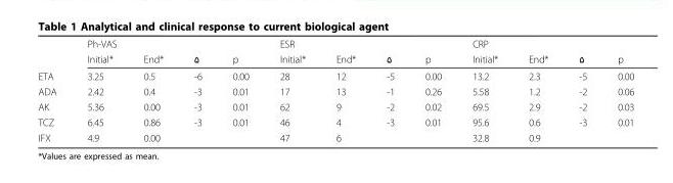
<table><thead><tr><td rowspan="2"></td><td colspan="4">Ph-VAS</td><td colspan="4">ESR</td><td colspan="4">CRP</td></tr><tr><td>Initial*</td><td>End*</td><td>۵</td><td>p</td><td>Initial*</td><td>End*</td><td>۵</td><td>p</td><td>Initial*</td><td>End*</td><td>۵</td><td>p</td></tr></thead><tbody><tr><td>ETA</td><td>3.25</td><td>0.5</td><td>-6</td><td>0.00</td><td>28</td><td>12</td><td>-5</td><td>0.00</td><td>13.2</td><td>2.3</td><td>-5</td><td>0.00</td></tr><tr><td>ADA</td><td>2.42</td><td>0.4</td><td>-3</td><td>0.01</td><td>17</td><td>13</td><td>-1</td><td>0.26</td><td>5.58</td><td>1.2</td><td>-2</td><td>0.06</td></tr><tr><td>AK</td><td>5.36</td><td>0.00</td><td>-3</td><td>0.01</td><td>62</td><td>9</td><td>-2</td><td>0.02</td><td>69.5</td><td>2.9</td><td>-2</td><td>0.03</td></tr><tr><td>TCZ</td><td>6.45</td><td>0.86</td><td>-3</td><td>0.01</td><td>46</td><td>4</td><td>-3</td><td>0.01</td><td>95.6</td><td>0.6</td><td>-3</td><td>0.01</td></tr><tr><td>IFX</td><td>4.9</td><td>0.00</td><td></td><td></td><td>47</td><td>6</td><td></td><td></td><td>32.8</td><td>0.9</td><td></td><td></td></tr></tbody></table>